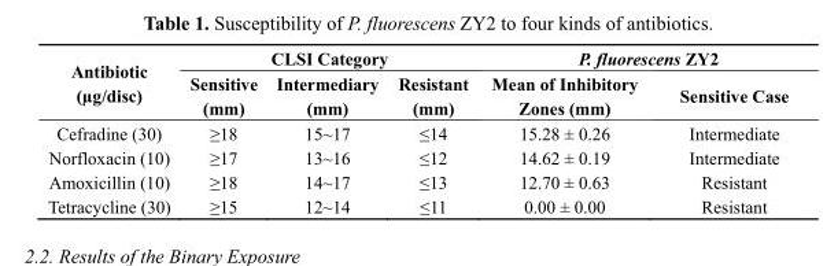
<table><thead><tr><td rowspan="2">Antibiotic (µg/disc)</td><td colspan="3">CLSI Category</td><td colspan="2">P. fluorescens ZY2</td></tr><tr><td>Sensitive (mm)</td><td>Intermediary (mm)</td><td>Resistant (mm)</td><td>Mean of Inhibitory Zones (mm)</td><td>Sensitive Case</td></tr></thead><tbody><tr><td>Cefradine (30)</td><td>≥18</td><td>15~17</td><td>≤14</td><td>15.28 ± 0.26</td><td>Intermediate</td></tr><tr><td>Norfloxacin (10)</td><td>≥17</td><td>13~16</td><td>≤12</td><td>14.62 ± 0.19</td><td>Intermediate</td></tr><tr><td>Amoxicillin (10)</td><td>≥18</td><td>14~17</td><td>≤13</td><td>12.70 ± 0.63</td><td>Resistant</td></tr><tr><td>Tetracycline (30)</td><td>≥15</td><td>12~14</td><td>≤11</td><td>0.00 ± 0.00</td><td>Resistant</td></tr></tbody></table>